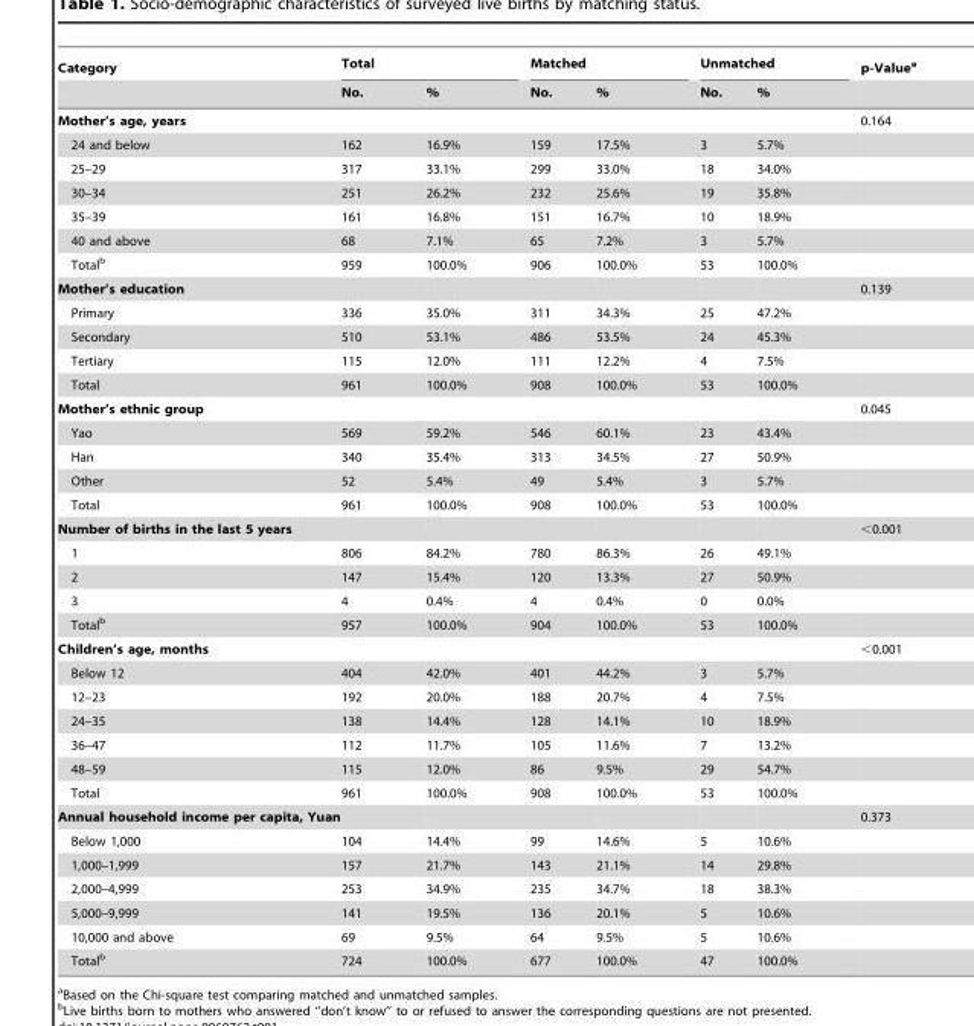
<table><thead><tr><td rowspan="2">Category</td><td colspan="2">Total</td><td colspan="2">Matched</td><td colspan="2">Unmatched</td><td rowspan="2">p-Value<sup>a</sup></td></tr><tr><td>No.</td><td>%</td><td>No.</td><td>%</td><td>No.</td><td>%</td></tr></thead><tbody><tr><td>Mother’s age, years</td><td></td><td></td><td></td><td></td><td></td><td></td><td>0.164</td></tr><tr><td>24 and below</td><td>162</td><td>16.9%</td><td>159</td><td>17.5%</td><td>3</td><td>5.7%</td><td></td></tr><tr><td>25–29</td><td>317</td><td>33.1%</td><td>299</td><td>33.0%</td><td>18</td><td>34.0%</td><td></td></tr><tr><td>30–34</td><td>251</td><td>26.2%</td><td>232</td><td>25.6%</td><td>19</td><td>35.8%</td><td></td></tr><tr><td>35–39</td><td>161</td><td>16.8%</td><td>151</td><td>16.7%</td><td>10</td><td>18.9%</td><td></td></tr><tr><td>40 and above</td><td>68</td><td>7.1%</td><td>65</td><td>7.2%</td><td>3</td><td>5.7%</td><td></td></tr><tr><td>Total<sup>b</sup></td><td>959</td><td>100.0%</td><td>906</td><td>100.0%</td><td>53</td><td>100.0%</td><td></td></tr><tr><td>Mother’s education</td><td></td><td></td><td></td><td></td><td></td><td></td><td>0.139</td></tr><tr><td>Primary</td><td>336</td><td>35.0%</td><td>311</td><td>34.3%</td><td>25</td><td>47.2%</td><td></td></tr><tr><td>Secondary</td><td>510</td><td>53.1%</td><td>486</td><td>53.5%</td><td>24</td><td>45.3%</td><td></td></tr><tr><td>Tertiary</td><td>115</td><td>12.0%</td><td>111</td><td>12.2%</td><td>4</td><td>7.5%</td><td></td></tr><tr><td>Total</td><td>961</td><td>100.0%</td><td>908</td><td>100.0%</td><td>53</td><td>100.0%</td><td></td></tr><tr><td>Mother’s ethnic group</td><td></td><td></td><td></td><td></td><td></td><td></td><td>0.045</td></tr><tr><td>Yao</td><td>569</td><td>59.2%</td><td>546</td><td>60.1%</td><td>23</td><td>43.4%</td><td></td></tr><tr><td>Han</td><td>340</td><td>35.4%</td><td>313</td><td>34.5%</td><td>27</td><td>50.9%</td><td></td></tr><tr><td>Other</td><td>52</td><td>5.4%</td><td>49</td><td>5.4%</td><td>3</td><td>5.7%</td><td></td></tr><tr><td>Total</td><td>961</td><td>100.0%</td><td>908</td><td>100.0%</td><td>53</td><td>100.0%</td><td></td></tr><tr><td>Number of births in the last 5 years</td><td></td><td></td><td></td><td></td><td></td><td></td><td>&lt;0.001</td></tr><tr><td>1</td><td>806</td><td>84.2%</td><td>780</td><td>86.3%</td><td>26</td><td>49.1%</td><td></td></tr><tr><td>2</td><td>147</td><td>15.4%</td><td>120</td><td>13.3%</td><td>27</td><td>50.9%</td><td></td></tr><tr><td>3</td><td>4</td><td>0.4%</td><td>4</td><td>0.4%</td><td>0</td><td>0.0%</td><td></td></tr><tr><td>Total<sup>b</sup></td><td>957</td><td>100.0%</td><td>904</td><td>100.0%</td><td>53</td><td>100.0%</td><td></td></tr><tr><td>Children’s age, months</td><td></td><td></td><td></td><td></td><td></td><td></td><td>&lt;0.001</td></tr><tr><td>Below 12</td><td>404</td><td>42.0%</td><td>401</td><td>44.2%</td><td>3</td><td>5.7%</td><td></td></tr><tr><td>12–23</td><td>192</td><td>20.0%</td><td>188</td><td>20.7%</td><td>4</td><td>7.5%</td><td></td></tr><tr><td>24–35</td><td>138</td><td>14.4%</td><td>128</td><td>14.1%</td><td>10</td><td>18.9%</td><td></td></tr><tr><td>36–47</td><td>112</td><td>11.7%</td><td>105</td><td>11.6%</td><td>7</td><td>13.2%</td><td></td></tr><tr><td>48–59</td><td>115</td><td>12.0%</td><td>86</td><td>9.5%</td><td>29</td><td>54.7%</td><td></td></tr><tr><td>Total</td><td>961</td><td>100.0%</td><td>908</td><td>100.0%</td><td>53</td><td>100.0%</td><td></td></tr><tr><td>Annual household income per capita, Yuan</td><td></td><td></td><td></td><td></td><td></td><td></td><td>0.373</td></tr><tr><td>Below 1,000</td><td>104</td><td>14.4%</td><td>99</td><td>14.6%</td><td>5</td><td>10.6%</td><td></td></tr><tr><td>1,000–1,999</td><td>157</td><td>21.7%</td><td>143</td><td>21.1%</td><td>14</td><td>29.8%</td><td></td></tr><tr><td>2,000–4,999</td><td>253</td><td>34.9%</td><td>235</td><td>34.7%</td><td>18</td><td>38.3%</td><td></td></tr><tr><td>5,000–9,999</td><td>141</td><td>19.5%</td><td>136</td><td>20.1%</td><td>5</td><td>10.6%</td><td></td></tr><tr><td>10,000 and above</td><td>69</td><td>9.5%</td><td>64</td><td>9.5%</td><td>5</td><td>10.6%</td><td></td></tr><tr><td>Total<sup>b</sup></td><td>724</td><td>100.0%</td><td>677</td><td>100.0%</td><td>47</td><td>100.0%</td><td></td></tr></tbody></table>